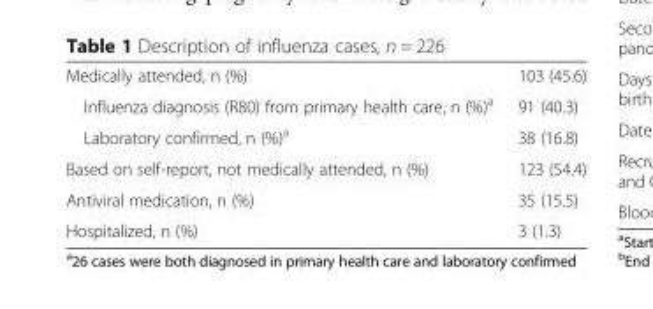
<table><tbody><tr><td>Medically attended, n (%)</td><td>103 (45.6)</td></tr><tr><td>Influenza diagnosis (R80) from primary health care, n (%)<sup>a</sup></td><td>91 (40.3)</td></tr><tr><td>Laboratory confirmed, n (%)<sup>a</sup></td><td>38 (16.8)</td></tr><tr><td>Based on self-report, not medically attended, n (%)</td><td>123 (54.4)</td></tr><tr><td>Antiviral medication, n (%)</td><td>35 (15.5)</td></tr><tr><td>Hospitalized, n (%)</td><td>3 (1.3)</td></tr></tbody></table>